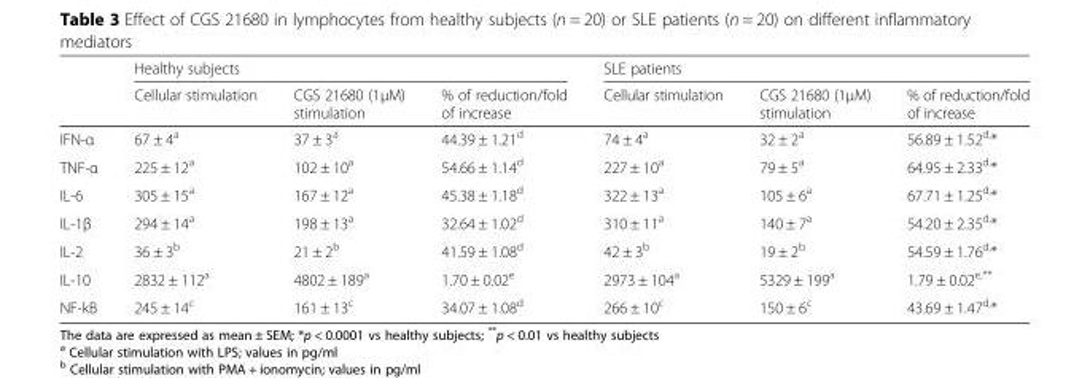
<table><thead><tr><td rowspan="2"></td><td colspan="3">Healthy subjects</td><td colspan="3">SLE patients</td></tr><tr><td>Cellular stimulation</td><td>CGS 21680 (1μM) stimulation</td><td>% of reduction/fold of increase</td><td>Cellular stimulation</td><td>CGS 21680 (1μM) stimulation</td><td>% of reduction/fold of increase</td></tr></thead><tbody><tr><td>IFN-α</td><td>67 ± 4<sup>a</sup></td><td>37 ± 3<sup>a</sup></td><td>44.39 ± 1.21<sup>d</sup></td><td>74 ± 4<sup>a</sup></td><td>32 ± 2<sup>a</sup></td><td>56.89 ± 1.52<sup>d,</sup>*</td></tr><tr><td>TNF-α</td><td>225 ± 12<sup>a</sup></td><td>102 ± 10<sup>a</sup></td><td>54.66 ± 1.14<sup>d</sup></td><td>227 ± 10<sup>a</sup></td><td>79 ± 5<sup>a</sup></td><td>64.95 ± 2.33<sup>d,</sup>*</td></tr><tr><td>IL-6</td><td>305 ± 15<sup>a</sup></td><td>167 ± 12<sup>a</sup></td><td>45.38 ± 1.18<sup>d</sup></td><td>322 ± 13<sup>a</sup></td><td>105 ± 6<sup>a</sup></td><td>67.71 ± 1.25<sup>d,</sup>*</td></tr><tr><td>IL-1β</td><td>294 ± 14<sup>a</sup></td><td>198 ± 13<sup>a</sup></td><td>32.64 ± 1.02<sup>d</sup></td><td>310 ± 11<sup>a</sup></td><td>140 ± 7<sup>a</sup></td><td>54.20 ± 2.35<sup>d,</sup>*</td></tr><tr><td>IL-2</td><td>36 ± 3<sup>b</sup></td><td>21 ± 2<sup>b</sup></td><td>41.59 ± 1.08<sup>d</sup></td><td>42 ± 3<sup>b</sup></td><td>19 ± 2<sup>b</sup></td><td>54.59 ± 1.76<sup>d,</sup>*</td></tr><tr><td>IL-10</td><td>2832 ± 112<sup>a</sup></td><td>4802 ± 189<sup>a</sup></td><td>1.70 ± 0.02<sup>e</sup></td><td>2973 ± 104<sup>a</sup></td><td>5329 ± 199<sup>a</sup></td><td>1.79 ± 0.02<sup>e,**</sup></td></tr><tr><td>NF-kB</td><td>245 ± 14<sup>c</sup></td><td>161 ± 13<sup>c</sup></td><td>34.07 ± 1.08<sup>d</sup></td><td>266 ± 10<sup>c</sup></td><td>150 ± 6<sup>c</sup></td><td>43.69 ± 1.47<sup>d,</sup>*</td></tr></tbody></table>